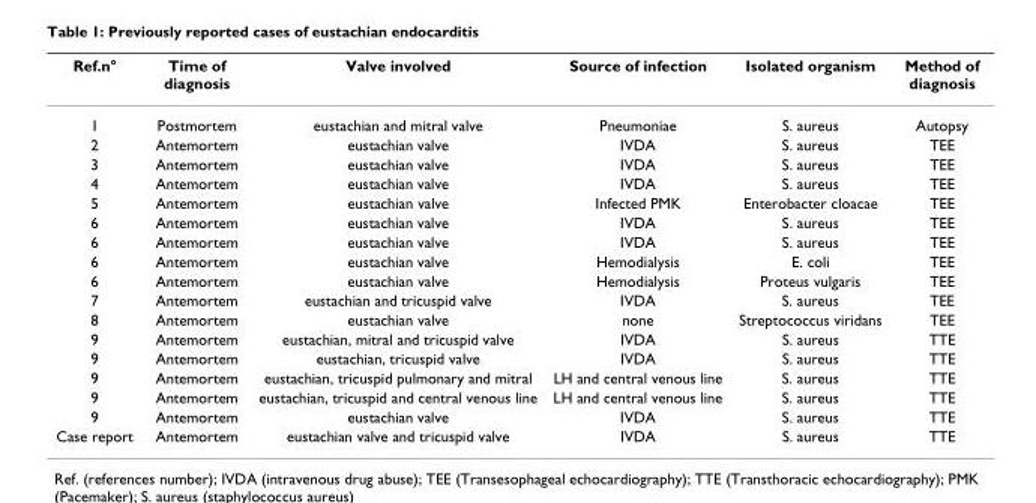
<table><thead><tr><td>Ref.n°</td><td>Time of diagnosis</td><td>Valve involved</td><td>Source of infection</td><td>Isolated organism</td><td>Method of diagnosis</td></tr></thead><tbody><tr><td>1</td><td>Postmortem</td><td>eustachian and mitral valve</td><td>Pneumoniae</td><td>S. aureus</td><td>Autopsy</td></tr><tr><td>2</td><td>Antemortem</td><td>eustachian valve</td><td>IVDA</td><td>S. aureus</td><td>TEE</td></tr><tr><td>3</td><td>Antemortem</td><td>eustachian valve</td><td>IVDA</td><td>S. aureus</td><td>TEE</td></tr><tr><td>4</td><td>Antemortem</td><td>eustachian valve</td><td>IVDA</td><td>S. aureus</td><td>TEE</td></tr><tr><td>5</td><td>Antemortem</td><td>eustachian valve</td><td>Infected PMK</td><td>Enterobacter cloacae</td><td>TEE</td></tr><tr><td>6</td><td>Antemortem</td><td>eustachian valve</td><td>IVDA</td><td>S. aureus</td><td>TEE</td></tr><tr><td>6</td><td>Antemortem</td><td>eustachian valve</td><td>IVDA</td><td>S. aureus</td><td>TEE</td></tr><tr><td>6</td><td>Antemortem</td><td>eustachian valve</td><td>Hemodialysis</td><td>E. coli</td><td>TEE</td></tr><tr><td>6</td><td>Antemortem</td><td>eustachian valve</td><td>Hemodialysis</td><td>Proteus vulgaris</td><td>TEE</td></tr><tr><td>7</td><td>Antemortem</td><td>eustachian and tricuspid valve</td><td>IVDA</td><td>S. aureus</td><td>TEE</td></tr><tr><td>8</td><td>Antemortem</td><td>eustachian valve</td><td>none</td><td>Streptococcus viridans</td><td>TEE</td></tr><tr><td>9</td><td>Antemortem</td><td>eustachian, mitral and tricuspid valve</td><td>IVDA</td><td>S. aureus</td><td>TTE</td></tr><tr><td>9</td><td>Antemortem</td><td>eustachian, tricuspid valve</td><td>IVDA</td><td>S. aureus</td><td>TTE</td></tr><tr><td>9</td><td>Antemortem</td><td>eustachian, tricuspid pulmonary and mitral</td><td>LH and central venous line</td><td>S. aureus</td><td>TTE</td></tr><tr><td>9</td><td>Antemortem</td><td>eustachian, tricuspid and central venous line</td><td>LH and central venous line</td><td>S. aureus</td><td>TTE</td></tr><tr><td>9</td><td>Antemortem</td><td>eustachian valve</td><td>IVDA</td><td>S. aureus</td><td>TTE</td></tr><tr><td>Case report</td><td>Antemortem</td><td>eustachian valve and tricuspid valve</td><td>IVDA</td><td>S. aureus</td><td>TTE</td></tr></tbody></table>